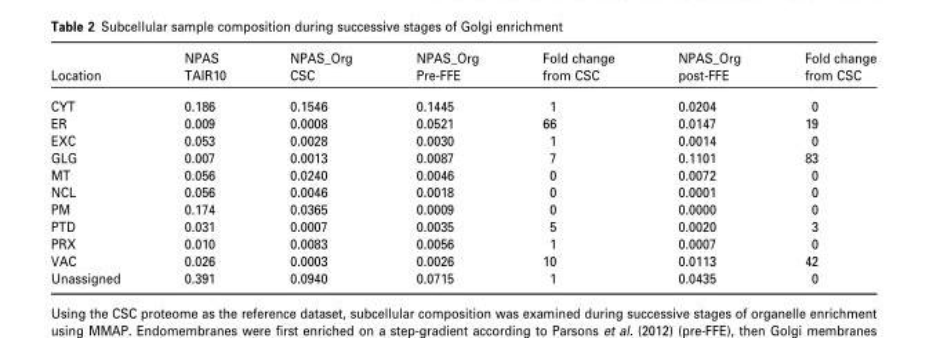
<table><thead><tr><td>Location</td><td>NPAS TAIR10</td><td>NPAS_Org CSC</td><td>NPAS_Org Pre-FFE</td><td>Fold change from CSC</td><td>NPAS_Org post-FFE</td><td>Fold change from CSC</td></tr></thead><tbody><tr><td>CYT</td><td>0.186</td><td>0.1546</td><td>0.1445</td><td>1</td><td>0.0204</td><td>0</td></tr><tr><td>ER</td><td>0.009</td><td>0.0008</td><td>0.0521</td><td>66</td><td>0.0147</td><td>19</td></tr><tr><td>EXC</td><td>0.053</td><td>0.0028</td><td>0.0030</td><td>1</td><td>0.0014</td><td>0</td></tr><tr><td>GLG</td><td>0.007</td><td>0.0013</td><td>0.0087</td><td>7</td><td>0.1101</td><td>83</td></tr><tr><td>MT</td><td>0.056</td><td>0.0240</td><td>0.0046</td><td>0</td><td>0.0072</td><td>0</td></tr><tr><td>NCL</td><td>0.056</td><td>0.0046</td><td>0.0018</td><td>0</td><td>0.0001</td><td>0</td></tr><tr><td>PM</td><td>0.174</td><td>0.0365</td><td>0.0009</td><td>0</td><td>0.0000</td><td>0</td></tr><tr><td>PTD</td><td>0.031</td><td>0.0007</td><td>0.0035</td><td>5</td><td>0.0020</td><td>3</td></tr><tr><td>PRX</td><td>0.010</td><td>0.0083</td><td>0.0056</td><td>1</td><td>0.0007</td><td>0</td></tr><tr><td>VAC</td><td>0.026</td><td>0.0003</td><td>0.0026</td><td>10</td><td>0.0113</td><td>42</td></tr><tr><td>Unassigned</td><td>0.391</td><td>0.0940</td><td>0.0715</td><td>1</td><td>0.0435</td><td>0</td></tr></tbody></table>